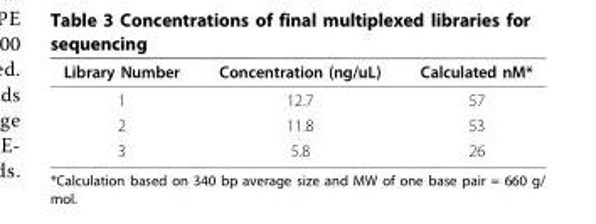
<table><thead><tr><td>Library Number</td><td>Concentration (ng/uL)</td><td>Calculated nM*</td></tr></thead><tbody><tr><td>1</td><td>12.7</td><td>57</td></tr><tr><td>2</td><td>11.8</td><td>53</td></tr><tr><td>3</td><td>5.8</td><td>26</td></tr></tbody></table>